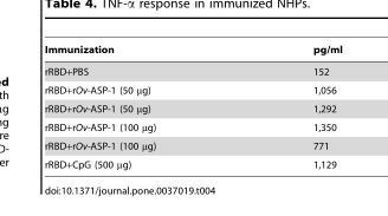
<table><thead><tr><td>Immunization</td><td>pg/ml</td></tr></thead><tbody><tr><td>rRBD+PBS</td><td>152</td></tr><tr><td>rRBD+rOv-ASP-1 (50 µg)</td><td>1,056</td></tr><tr><td>rRBD+rOv-ASP-1 (50 µg)</td><td>1,292</td></tr><tr><td>rRBD+rOv-ASP-1 (100 µg)</td><td>1,350</td></tr><tr><td>rRBD+rOv-ASP-1 (100 µg)</td><td>771</td></tr><tr><td>rRBD+CpG (500 µg)</td><td>1,129</td></tr></tbody></table>